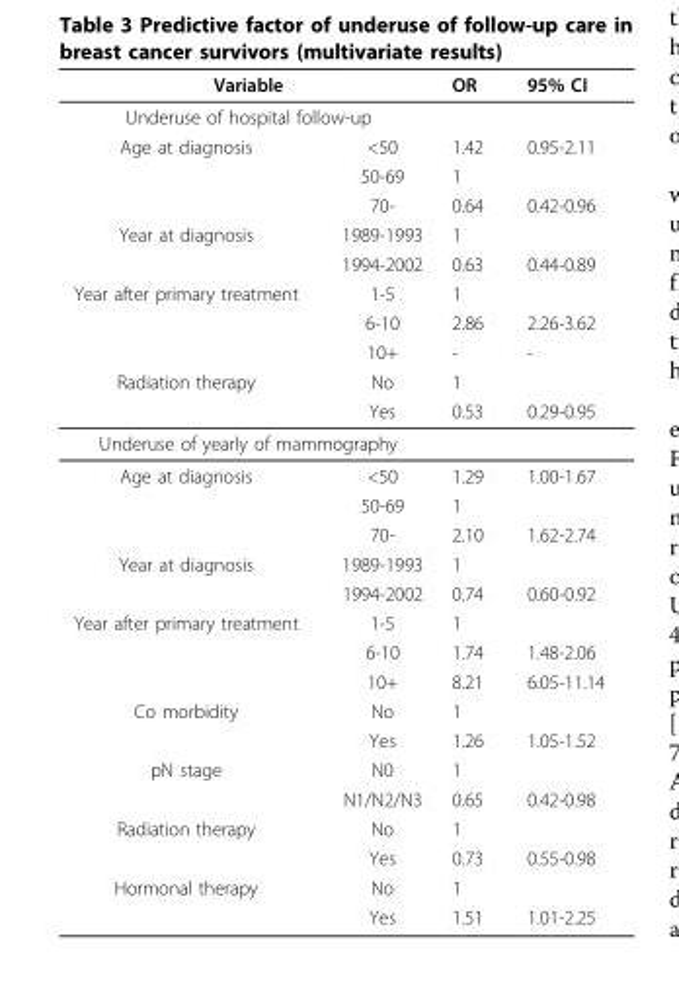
<table><thead><tr><td rowspan="2" colspan="2">Variable Underuse of hospital follow-up</td><td rowspan="3">OR 1.42</td><td rowspan="3">95% CI 0.95-2.11</td></tr><tr></tr><tr><td>Age at diagnosis</td><td>&lt;50</td></tr></thead><tbody><tr><td></td><td>50-69</td><td>1</td><td></td></tr><tr><td></td><td>70-</td><td>0.64</td><td>0.42-0.96</td></tr><tr><td rowspan="2">Year at diagnosis</td><td>1989-1993</td><td>1</td><td></td></tr><tr><td>1994-2002</td><td>0.63</td><td>0.44-0.89</td></tr><tr><td rowspan="3">Year after primary treatment</td><td>1-5</td><td>1</td><td></td></tr><tr><td>6-10</td><td>2.86</td><td>2.26-3.62</td></tr><tr><td>10+</td><td>-</td><td>-</td></tr><tr><td rowspan="2">Radiation therapy</td><td>No</td><td>1</td><td></td></tr><tr><td>Yes</td><td>0.53</td><td>0.29-0.95</td></tr><tr><td colspan="4">Underuse of yearly of mammography</td></tr><tr><td rowspan="3">Age at diagnosis</td><td>&lt;50</td><td>1.29</td><td>1.00-1.67</td></tr><tr><td>50-69</td><td>1</td><td></td></tr><tr><td>70-</td><td>2.10</td><td>1.62-2.74</td></tr><tr><td rowspan="2">Year at diagnosis</td><td>1989-1993</td><td>1</td><td></td></tr><tr><td>1994-2002</td><td>0.74</td><td>0.60-0.92</td></tr><tr><td rowspan="3">Year after primary treatment</td><td>1-5</td><td>1</td><td></td></tr><tr><td>6-10</td><td>1.74</td><td>1.48-2.06</td></tr><tr><td>10+</td><td>8.21</td><td>6.05-11.14</td></tr><tr><td rowspan="2">Co morbidity</td><td>No</td><td>1</td><td></td></tr><tr><td>Yes</td><td>1.26</td><td>1.05-1.52</td></tr><tr><td rowspan="2">pN stage</td><td>N0</td><td>1</td><td></td></tr><tr><td>N1/N2/N3</td><td>0.65</td><td>0.42-0.98</td></tr><tr><td rowspan="2">Radiation therapy</td><td>No</td><td>1</td><td></td></tr><tr><td>Yes</td><td>0.73</td><td>0.55-0.98</td></tr><tr><td rowspan="2">Hormonal therapy</td><td>No</td><td>1</td><td></td></tr><tr><td>Yes</td><td>1.51</td><td>1.01-2.25</td></tr></tbody></table>